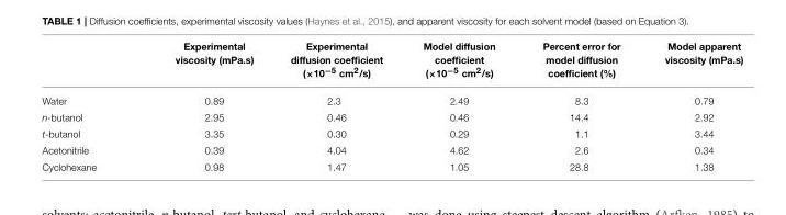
<table><thead><tr><td></td><td>Experimental viscosity (mPa.s)</td><td>Experimental diffusion coefficient (×10<sup>−5</sup> cm<sup>2</sup>/s)</td><td>Model diffusion coefficient (×10<sup>−5</sup> cm<sup>2</sup>/s)</td><td>Percent error for model diffusion coefficient (%)</td><td>Model apparent viscosity (mPa.s)</td></tr></thead><tbody><tr><td>Water</td><td>0.89</td><td>2.3</td><td>2.49</td><td>8.3</td><td>0.79</td></tr><tr><td>n-butanol</td><td>2.95</td><td>0.46</td><td>0.46</td><td>14.4</td><td>2.92</td></tr><tr><td>t-butanol</td><td>3.35</td><td>0.30</td><td>0.29</td><td>1.1</td><td>3.44</td></tr><tr><td>Acetonitrile</td><td>0.39</td><td>4.04</td><td>4.62</td><td>2.6</td><td>0.34</td></tr><tr><td>Cyclohexane</td><td>0.98</td><td>1.47</td><td>1.05</td><td>28.8</td><td>1.38</td></tr></tbody></table>